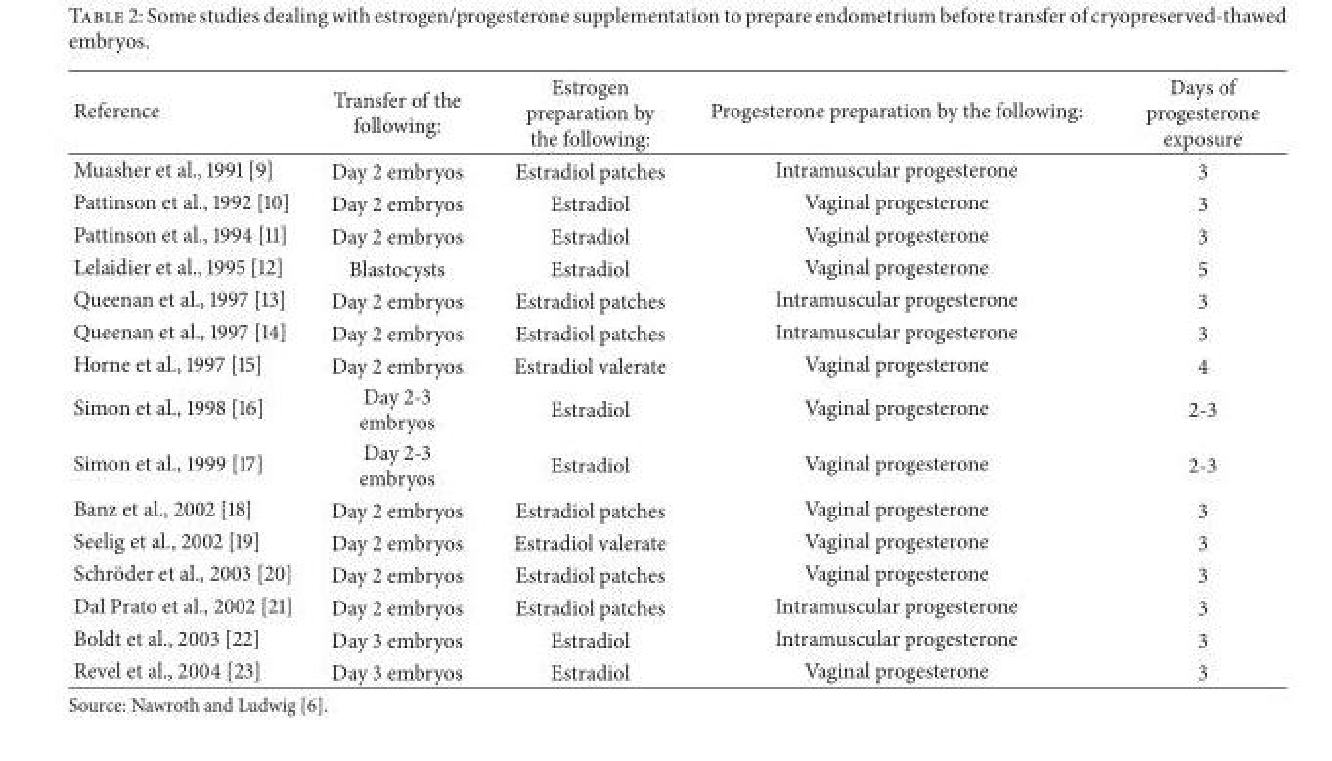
<table><thead><tr><td>Reference</td><td>Transfer of the following:</td><td>Estrogen preparation by the following:</td><td>Progesterone preparation by the following:</td><td>Days of progesterone exposure</td></tr></thead><tbody><tr><td>Muasher et al., 1991 [9]</td><td>Day 2 embryos</td><td>Estradiol patches</td><td>Intramuscular progesterone</td><td>3</td></tr><tr><td>Pattinson et al., 1992 [10]</td><td>Day 2 embryos</td><td>Estradiol</td><td>Vaginal progesterone</td><td>3</td></tr><tr><td>Pattinson et al., 1994 [11]</td><td>Day 2 embryos</td><td>Estradiol</td><td>Vaginal progesterone</td><td>3</td></tr><tr><td>Lelaidier et al., 1995 [12]</td><td>Blastocysts</td><td>Estradiol</td><td>Vaginal progesterone</td><td>5</td></tr><tr><td>Queenan et al., 1997 [13]</td><td>Day 2 embryos</td><td>Estradiol patches</td><td>Intramuscular progesterone</td><td>3</td></tr><tr><td>Queenan et al., 1997 [14]</td><td>Day 2 embryos</td><td>Estradiol patches</td><td>Intramuscular progesterone</td><td>3</td></tr><tr><td>Horne et al., 1997 [15]</td><td>Day 2 embryos</td><td>Estradiol valerate</td><td>Vaginal progesterone</td><td>4</td></tr><tr><td>Simon et al., 1998 [16]</td><td>Day 2-3 embryos</td><td>Estradiol</td><td>Vaginal progesterone</td><td>2-3</td></tr><tr><td>Simon et al., 1999 [17]</td><td>Day 2-3 embryos</td><td>Estradiol</td><td>Vaginal progesterone</td><td>2-3</td></tr><tr><td>Banz et al., 2002 [18]</td><td>Day 2 embryos</td><td>Estradiol patches</td><td>Vaginal progesterone</td><td>3</td></tr><tr><td>Seelig et al., 2002 [19]</td><td>Day 2 embryos</td><td>Estradiol valerate</td><td>Vaginal progesterone</td><td>3</td></tr><tr><td>Schr¨oder et al., 2003 [20]</td><td>Day 2 embryos</td><td>Estradiol patches</td><td>Vaginal progesterone</td><td>3</td></tr><tr><td>Dal Prato et al., 2002 [21]</td><td>Day 2 embryos</td><td>Estradiol patches</td><td>Intramuscular progesterone</td><td>3</td></tr><tr><td>Boldt et al., 2003 [22]</td><td>Day 3 embryos</td><td>Estradiol</td><td>Intramuscular progesterone</td><td>3</td></tr><tr><td>Revel et al., 2004 [23]</td><td>Day 3 embryos</td><td>Estradiol</td><td>Vaginal progesterone</td><td>3</td></tr></tbody></table>